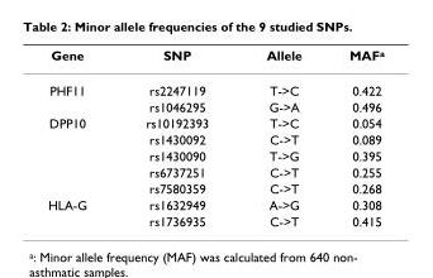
<table><thead><tr><td>Gene</td><td>SNP</td><td>Allele</td><td>MAF<sup>a</sup></td></tr></thead><tbody><tr><td rowspan="2">PHF11</td><td>rs2247119</td><td>T-&gt;C</td><td>0.422</td></tr><tr><td>rs1046295</td><td>G-&gt;A</td><td>0.496</td></tr><tr><td rowspan="5">DPP10</td><td>rs10192393</td><td>T-&gt;C</td><td>0.054</td></tr><tr><td>rs1430092</td><td>C-&gt;T</td><td>0.089</td></tr><tr><td>rs1430090</td><td>T-&gt;G</td><td>0.395</td></tr><tr><td>rs6737251</td><td>C-&gt;T</td><td>0.255</td></tr><tr><td>rs7580359</td><td>C-&gt;T</td><td>0.268</td></tr><tr><td rowspan="2">HLA-G</td><td>rs1632949</td><td>A-&gt;G</td><td>0.308</td></tr><tr><td>rs1736935</td><td>C-&gt;T</td><td>0.415</td></tr></tbody></table>